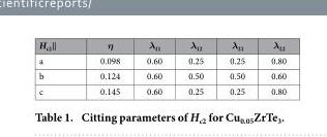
<table><thead><tr><td>H<sub>c2</sub>∥</td><td>η</td><td>λ<sub>11</sub></td><td>λ<sub>12</sub></td><td>λ<sub>21</sub></td><td>λ<sub>22</sub></td></tr></thead><tbody><tr><td>a</td><td>0.098</td><td>0.60</td><td>0.25</td><td>0.25</td><td>0.80</td></tr><tr><td>b</td><td>0.124</td><td>0.60</td><td>0.50</td><td>0.50</td><td>0.60</td></tr><tr><td>c</td><td>0.145</td><td>0.60</td><td>0.25</td><td>0.25</td><td>0.80</td></tr></tbody></table>